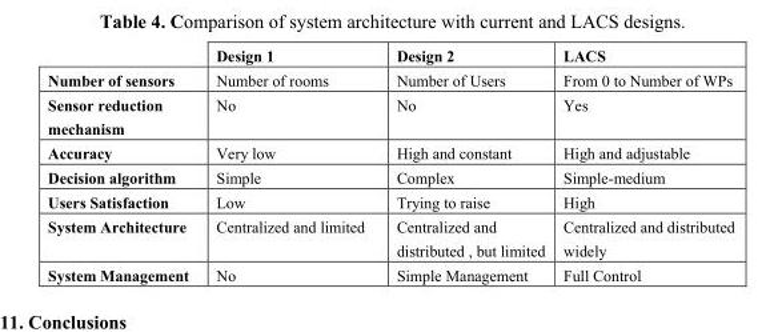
<table><thead><tr><td></td><td>Design 1</td><td>Design 2</td><td>LACS</td></tr></thead><tbody><tr><td>Number of sensors</td><td>Number of rooms</td><td>Number of Users</td><td>From 0 to Number of WPs</td></tr><tr><td>Sensor reduction mechanism</td><td>No</td><td>No</td><td>Yes</td></tr><tr><td>Accuracy</td><td>Very low</td><td>High and constant</td><td>High and adjustable</td></tr><tr><td>Decision algorithm</td><td>Simple</td><td>Complex</td><td>Simple-medium</td></tr><tr><td>Users Satisfaction</td><td>Low</td><td>Trying to raise</td><td>High</td></tr><tr><td>System Architecture</td><td>Centralized and limited</td><td>Centralized and distributed , but limited</td><td>Centralized and distributed widely</td></tr><tr><td>System Management</td><td>No</td><td>Simple Management</td><td>Full Control</td></tr></tbody></table>